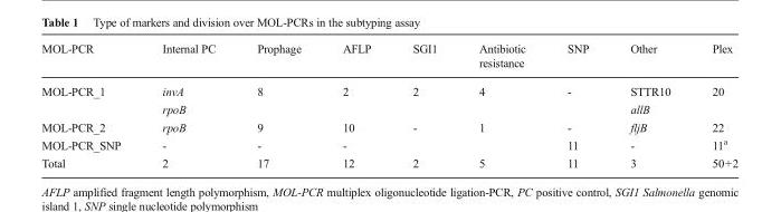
<table><thead><tr><td>MOL-PCR</td><td>Internal PC</td><td>Prophage</td><td>AFLP</td><td>SGI1</td><td>Antibiotic resistance</td><td>SNP</td><td>Other</td><td>Plex</td></tr></thead><tbody><tr><td rowspan="2">MOL-PCR_1</td><td>invA</td><td>8</td><td>2</td><td>2</td><td>4</td><td>-</td><td>STTR10</td><td>20</td></tr><tr><td>rpoB</td><td></td><td></td><td></td><td></td><td></td><td>allB</td><td></td></tr><tr><td>MOL-PCR_2</td><td>rpoB</td><td>9</td><td>10</td><td>-</td><td>1</td><td>-</td><td>fljB</td><td>22</td></tr><tr><td>MOL-PCR_SNP</td><td>-</td><td>-</td><td>-</td><td></td><td></td><td>11</td><td>-</td><td>11<sup>a</sup></td></tr><tr><td>Total</td><td>2</td><td>17</td><td>12</td><td>2</td><td>5</td><td>11</td><td>3</td><td>50+2</td></tr></tbody></table>